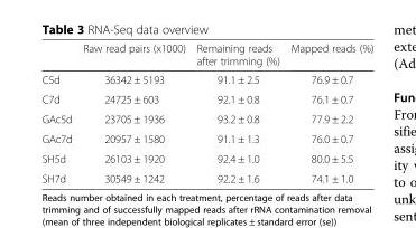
<table><thead><tr><td></td><td>Raw read pairs (x1000)</td><td>Remaining reads after trimming (%)</td><td>Mapped reads (%)</td></tr></thead><tbody><tr><td>C5d</td><td>36342 ± 5193</td><td>91.1 ± 2.5</td><td>76.9 ± 0.7</td></tr><tr><td>C7d</td><td>24725 ± 603</td><td>92.1 ± 0.8</td><td>76.1 ± 0.7</td></tr><tr><td>GAc5d</td><td>23705 ± 1936</td><td>93.2 ± 0.8</td><td>77.9 ± 2.2</td></tr><tr><td>GAc7d</td><td>20957 ± 1580</td><td>91.1 ± 1.3</td><td>76.0 ± 0.7</td></tr><tr><td>SH5d</td><td>26103 ± 1920</td><td>92.4 ± 1.0</td><td>80.0 ± 5.5</td></tr><tr><td>SH7d</td><td>30549 ± 1242</td><td>92.2 ± 1.6</td><td>74.1 ± 1.0</td></tr></tbody></table>